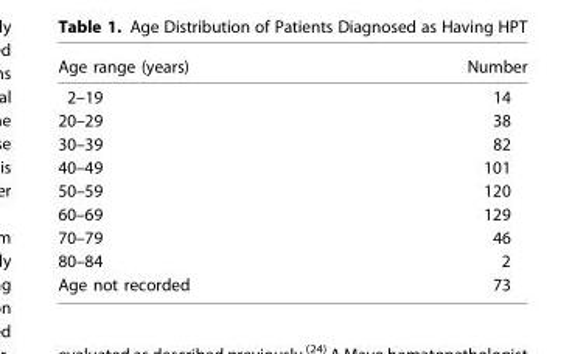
<table><thead><tr><td>Age range (years)</td><td>Number</td></tr></thead><tbody><tr><td>2–19</td><td>14</td></tr><tr><td>20–29</td><td>38</td></tr><tr><td>30–39</td><td>82</td></tr><tr><td>40–49</td><td>101</td></tr><tr><td>50–59</td><td>120</td></tr><tr><td>60–69</td><td>129</td></tr><tr><td>70–79</td><td>46</td></tr><tr><td>80–84</td><td>2</td></tr><tr><td>Age not recorded</td><td>73</td></tr></tbody></table>